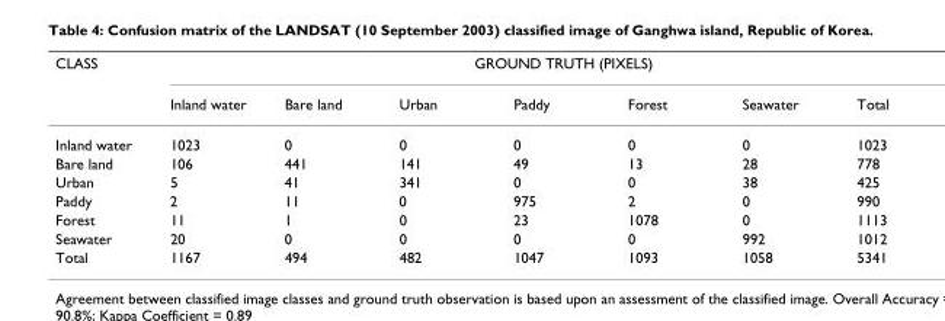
<table><thead><tr><td rowspan="2">CLASS</td><td colspan="7">GROUND TRUTH (PIXELS)</td></tr><tr><td>Inland water</td><td>Bare land</td><td>Urban</td><td>Paddy</td><td>Forest</td><td>Seawater</td><td>Total</td></tr></thead><tbody><tr><td>Inland water</td><td>1023</td><td>0</td><td>0</td><td>0</td><td>0</td><td>0</td><td>1023</td></tr><tr><td>Bare land</td><td>106</td><td>441</td><td>141</td><td>49</td><td>13</td><td>28</td><td>778</td></tr><tr><td>Urban</td><td>5</td><td>41</td><td>341</td><td>0</td><td>0</td><td>38</td><td>425</td></tr><tr><td>Paddy</td><td>2</td><td>11</td><td>0</td><td>975</td><td>2</td><td>0</td><td>990</td></tr><tr><td>Forest</td><td>11</td><td>1</td><td>0</td><td>23</td><td>1078</td><td>0</td><td>1113</td></tr><tr><td>Seawater</td><td>20</td><td>0</td><td>0</td><td>0</td><td>0</td><td>992</td><td>1012</td></tr><tr><td>Total</td><td>1167</td><td>494</td><td>482</td><td>1047</td><td>1093</td><td>1058</td><td>5341</td></tr></tbody></table>